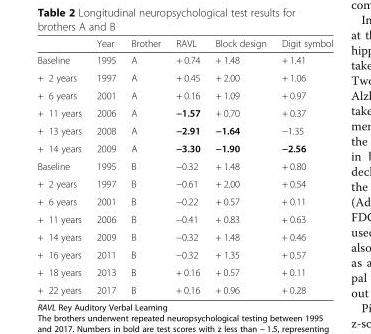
<table><thead><tr><td></td><td>Year</td><td>Brother</td><td>RAVL</td><td>Block design</td><td>Digit symbol</td></tr></thead><tbody><tr><td>Baseline</td><td>1995</td><td>A</td><td>+ 0.74</td><td>+ 1.48</td><td>+ 1.41</td></tr><tr><td>+ 2 years</td><td>1997</td><td>A</td><td>+ 0.45</td><td>+ 2.00</td><td>+ 1.06</td></tr><tr><td>+ 6 years</td><td>2001</td><td>A</td><td>+ 0.16</td><td>+ 1.09</td><td>+ 0.97</td></tr><tr><td>+ 11 years</td><td>2006</td><td>A</td><td>−1.57</td><td>+ 0.70</td><td>+ 0.37</td></tr><tr><td>+ 13 years</td><td>2008</td><td>A</td><td>−2.91</td><td>−1.64</td><td>−1.35</td></tr><tr><td>+ 14 years</td><td>2009</td><td>A</td><td>−3.30</td><td>−1.90</td><td>−2.56</td></tr><tr><td>Baseline</td><td>1995</td><td>B</td><td>−0.32</td><td>+ 1.48</td><td>+ 0.80</td></tr><tr><td>+ 2 years</td><td>1997</td><td>B</td><td>−0.61</td><td>+ 2.00</td><td>+ 0.54</td></tr><tr><td>+ 6 years</td><td>2001</td><td>B</td><td>−0.22</td><td>+ 0.57</td><td>+ 0.11</td></tr><tr><td>+ 11 years</td><td>2006</td><td>B</td><td>−0.41</td><td>+ 0.83</td><td>+ 0.63</td></tr><tr><td>+ 14 years</td><td>2009</td><td>B</td><td>−0.32</td><td>+ 1.48</td><td>+ 0.46</td></tr><tr><td>+ 16 years</td><td>2011</td><td>B</td><td>−0.32</td><td>+ 1.35</td><td>+ 0.57</td></tr><tr><td>+ 18 years</td><td>2013</td><td>B</td><td>+ 0.16</td><td>+ 0.57</td><td>+ 0.11</td></tr><tr><td>+ 22 years</td><td>2017</td><td>B</td><td>+ 0.16</td><td>+ 0.96</td><td>+ 0.28</td></tr></tbody></table>